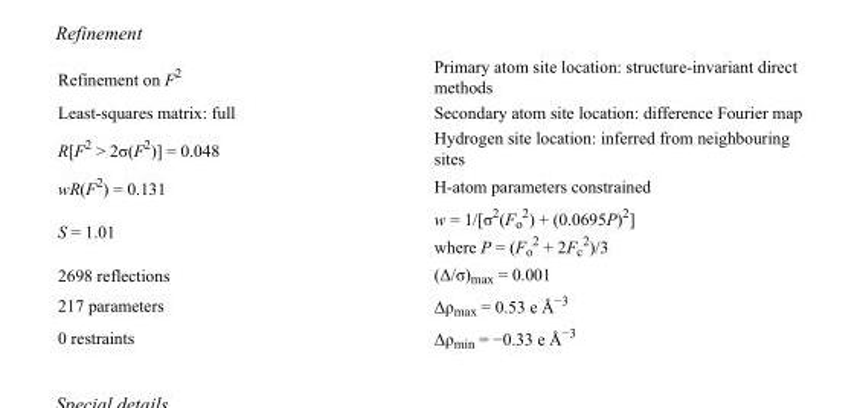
<table><tbody><tr><td>Refinement on F<sup>2</sup></td><td>Primary atom site location: structure-invariant direct methods</td></tr><tr><td>Least-squares matrix: full</td><td>Secondary atom site location: difference Fourier map</td></tr><tr><td>R[F<sup>2</sup> &gt; 2σ(F<sup>2</sup>)] = 0.048</td><td>Hydrogen site location: inferred from neighbouring sites</td></tr><tr><td>wR(F<sup>2</sup>) = 0.131</td><td>H-atom parameters constrained</td></tr><tr><td>S = 1.01</td><td>w = 1/[σ<sup>2</sup>(F<sub>o</sub> <sup>2</sup>) + (0.0695P)<sup>2</sup>] where P = (F<sub>o</sub> <sup>2</sup> + 2F<sub>c</sub> <sup>2</sup>)/3</td></tr><tr><td>2698 reflections</td><td>(Δ/σ)<sub>max</sub> = 0.001</td></tr><tr><td>217 parameters</td><td>Δρ<sub>max</sub> = 0.53 e Å<sup>−3</sup></td></tr><tr><td>0 restraints</td><td>Δρ<sub>min</sub> = −0.33 e Å<sup>−3</sup></td></tr></tbody></table>